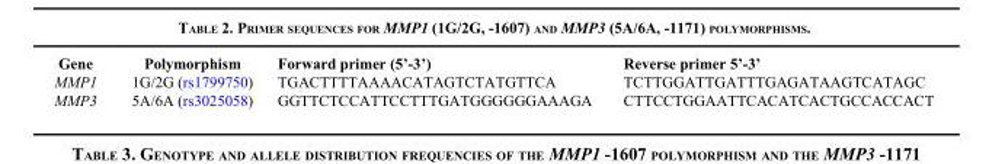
<table><thead><tr><td>Gene</td><td>Polymorphism</td><td>Forward primer (5’-3’)</td><td>Reverse primer 5’-3’</td></tr></thead><tbody><tr><td>MMP1</td><td>1G/2G (rs1799750)</td><td>TGACTTTTAAAACATAGTCTATGTTCA</td><td>TCTTGGATTGATTTGAGATAAGTCATAGC</td></tr><tr><td>MMP3</td><td>5A/6A (rs3025058)</td><td>GGTTCTCCATTCCTTTGATGGGGGGAAAGA</td><td>CTTCCTGGAATTCACATCACTGCCACCACT</td></tr></tbody></table>